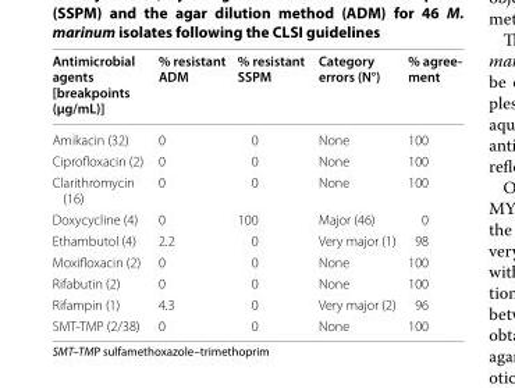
<table><thead><tr><td>Antimicrobial agents [breakpoints (µg/mL)]</td><td>% resistant ADM</td><td>% resistant SSPM</td><td>Category errors (N°)</td><td>% agree‑ ment</td></tr></thead><tbody><tr><td>Amikacin (32)</td><td>0</td><td>0</td><td>None</td><td>100</td></tr><tr><td>Ciprofloxacin (2)</td><td>0</td><td>0</td><td>None</td><td>100</td></tr><tr><td>Clarithromycin (16)</td><td>0</td><td>0</td><td>None</td><td>100</td></tr><tr><td>Doxycycline (4)</td><td>0</td><td>100</td><td>Major (46)</td><td>0</td></tr><tr><td>Ethambutol (4)</td><td>2.2</td><td>0</td><td>Very major (1)</td><td>98</td></tr><tr><td>Moxifloxacin (2)</td><td>0</td><td>0</td><td>None</td><td>100</td></tr><tr><td>Rifabutin (2)</td><td>0</td><td>0</td><td>None</td><td>100</td></tr><tr><td>Rifampin (1)</td><td>4.3</td><td>0</td><td>Very major (2)</td><td>96</td></tr><tr><td>SMT‑TMP (2/38)</td><td>0</td><td>0</td><td>None</td><td>100</td></tr></tbody></table>